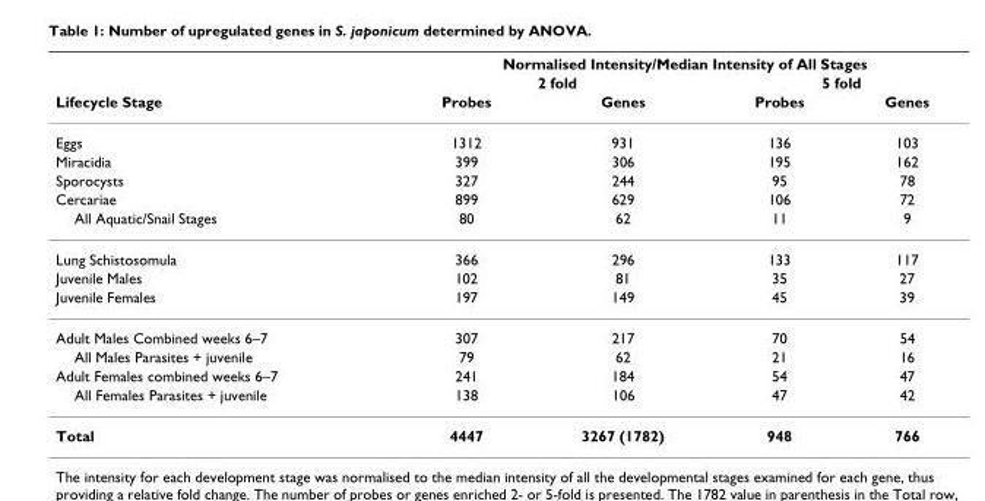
<table><thead><tr><td rowspan="3">Lifecycle Stage</td><td colspan="4">Normalised Intensity/Median Intensity of All Stages</td></tr><tr><td colspan="2">2 fold</td><td colspan="2">5 fold</td></tr><tr><td>Probes</td><td>Genes</td><td>Probes</td><td>Genes</td></tr></thead><tbody><tr><td>Eggs</td><td>1312</td><td>931</td><td>136</td><td>103</td></tr><tr><td>Miracidia</td><td>399</td><td>306</td><td>195</td><td>162</td></tr><tr><td>Sporocysts</td><td>327</td><td>244</td><td>95</td><td>78</td></tr><tr><td>Cercariae</td><td>899</td><td>629</td><td>106</td><td>72</td></tr><tr><td>All Aquatic/Snail Stages</td><td>80</td><td>62</td><td>11</td><td>9</td></tr><tr><td>Lung Schistosomula</td><td>366</td><td>296</td><td>133</td><td>117</td></tr><tr><td>Juvenile Males</td><td>102</td><td>81</td><td>35</td><td>27</td></tr><tr><td>Juvenile Females</td><td>197</td><td>149</td><td>45</td><td>39</td></tr><tr><td>Adult Males Combined weeks 6–7</td><td>307</td><td>217</td><td>70</td><td>54</td></tr><tr><td>All Males Parasites + juvenile</td><td>79</td><td>62</td><td>21</td><td>16</td></tr><tr><td>Adult Females combined weeks 6–7</td><td>241</td><td>184</td><td>54</td><td>47</td></tr><tr><td>All Females Parasites + juvenile</td><td>138</td><td>106</td><td>47</td><td>42</td></tr><tr><td>Total</td><td>4447</td><td>3267 (1782)</td><td>948</td><td>766</td></tr></tbody></table>